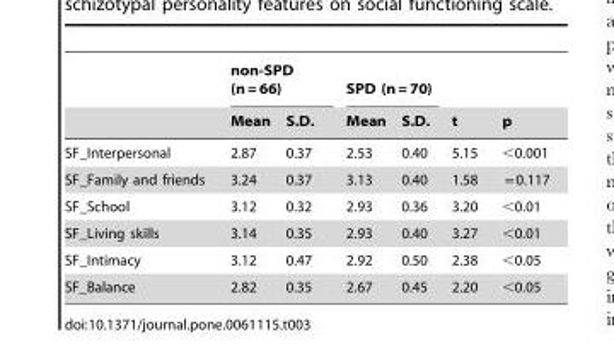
<table><thead><tr><td rowspan="2"></td><td colspan="2">non-SPD (n = 66)</td><td colspan="2">SPD (n = 70)</td><td rowspan="2">t</td><td rowspan="2">p</td></tr><tr><td>Mean</td><td>S.D.</td><td>Mean</td><td>S.D.</td></tr></thead><tbody><tr><td>SF_Interpersonal</td><td>2.87</td><td>0.37</td><td>2.53</td><td>0.40</td><td>5.15</td><td>&lt;0.001</td></tr><tr><td>SF_Family and friends</td><td>3.24</td><td>0.37</td><td>3.13</td><td>0.40</td><td>1.58</td><td>= 0.117</td></tr><tr><td>SF_School</td><td>3.12</td><td>0.32</td><td>2.93</td><td>0.36</td><td>3.20</td><td>&lt;0.01</td></tr><tr><td>SF_Living skills</td><td>3.14</td><td>0.35</td><td>2.93</td><td>0.40</td><td>3.27</td><td>&lt;0.01</td></tr><tr><td>SF_Intimacy</td><td>3.12</td><td>0.47</td><td>2.92</td><td>0.50</td><td>2.38</td><td>&lt;0.05</td></tr><tr><td>SF_Balance</td><td>2.82</td><td>0.35</td><td>2.67</td><td>0.45</td><td>2.20</td><td>&lt;0.05</td></tr></tbody></table>